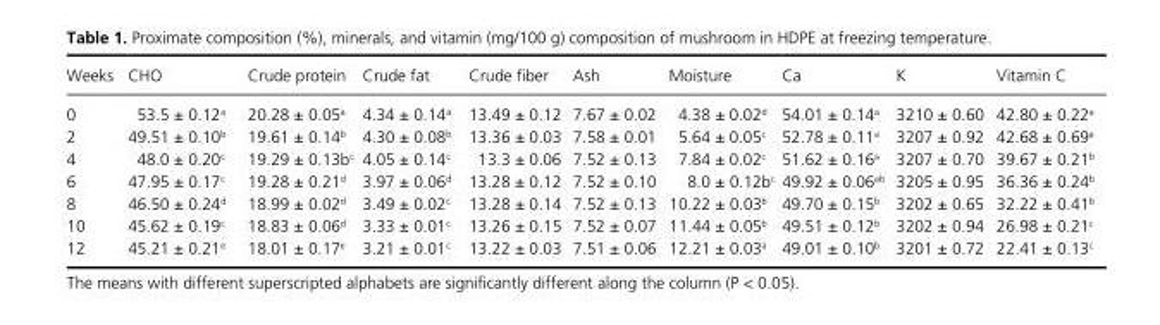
<table><thead><tr><td>Weeks</td><td>CHO</td><td>Crude protein</td><td>Crude fat</td><td>Crude fi ber</td><td>Ash</td><td>Moisture</td><td>Ca</td><td>K</td><td>Vitamin C</td></tr></thead><tbody><tr><td>0</td><td>53.5 ± 0.12 <sup>a</sup></td><td>20.28 ± 0.05 <sup>a</sup></td><td>4.34 ± 0.14 <sup>a</sup></td><td>13.49 ± 0.12</td><td>7.67 ± 0.02</td><td>4.38 ± 0.02 <sup>d</sup></td><td>54.01 ± 0.14 <sup>a</sup></td><td>3210 ± 0.60</td><td>42.80 ± 0.22 <sup>a</sup></td></tr><tr><td>2</td><td>49.51 ± 0.10 <sup>b</sup></td><td>19.61 ± 0.14 <sup>b</sup></td><td>4.30 ± 0.08 <sup>b</sup></td><td>13.36 ± 0.03</td><td>7.58 ± 0.01</td><td>5.64 ± 0.05 <sup>c</sup></td><td>52.78 ± 0.11 <sup>a</sup></td><td>3207 ± 0.92</td><td>42.68 ± 0.69 <sup>a</sup></td></tr><tr><td>4</td><td>48.0 ± 0.20 <sup>c</sup></td><td>19.29 ± 0.13b <sup>c</sup></td><td>4.05 ± 0.14 <sup>c</sup></td><td>13.3 ± 0.06</td><td>7.52 ± 0.13</td><td>7.84 ± 0.02 <sup>c</sup></td><td>51.62 ± 0.16 <sup>a</sup></td><td>3207 ± 0.70</td><td>39.67 ± 0.21 <sup>b</sup></td></tr><tr><td>6</td><td>47.95 ± 0.17 <sup>c</sup></td><td>19.28 ± 0.21 <sup>d</sup></td><td>3.97 ± 0.06 <sup>d</sup></td><td>13.28 ± 0.12</td><td>7.52 ± 0.10</td><td>8.0 ± 0.12b <sup>c</sup></td><td>49.92 ± 0.06 <sup>ab</sup></td><td>3205 ± 0.95</td><td>36.36 ± 0.24 <sup>b</sup></td></tr><tr><td>8</td><td>46.50 ± 0.24 <sup>d</sup></td><td>18.99 ± 0.02 <sup>d</sup></td><td>3.49 ± 0.02 <sup>c</sup></td><td>13.28 ± 0.14</td><td>7.52 ± 0.13</td><td>10.22 ± 0.03 <sup>b</sup></td><td>49.70 ± 0.15 <sup>b</sup></td><td>3202 ± 0.65</td><td>32.22 ± 0.41 <sup>b</sup></td></tr><tr><td>10</td><td>45.62 ± 0.19 <sup>c</sup></td><td>18.83 ± 0.06 <sup>d</sup></td><td>3.33 ± 0.01 <sup>c</sup></td><td>13.26 ± 0.15</td><td>7.52 ± 0.07</td><td>11.44 ± 0.05 <sup>b</sup></td><td>49.51 ± 0.12 <sup>b</sup></td><td>3202 ± 0.94</td><td>26.98 ± 0.21 <sup>c</sup></td></tr><tr><td>12</td><td>45.21 ± 0.21 <sup>e</sup></td><td>18.01 ± 0.17 <sup>e</sup></td><td>3.21 ± 0.01 <sup>c</sup></td><td>13.22 ± 0.03</td><td>7.51 ± 0.06</td><td>12.21 ± 0.03 <sup>a</sup></td><td>49.01 ± 0.10 <sup>b</sup></td><td>3201 ± 0.72</td><td>22.41 ± 0.13 <sup>c</sup></td></tr></tbody></table>